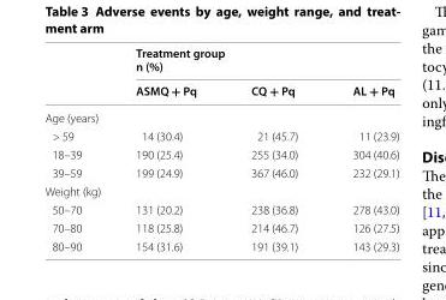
<table><thead><tr><td rowspan="2"></td><td colspan="3">Treatment group n (%)</td></tr><tr><td>ASMQ + Pq</td><td>CQ + Pq</td><td>AL + Pq</td></tr></thead><tbody><tr><td colspan="4">Age (years)</td></tr><tr><td>&gt; 59</td><td>14 (30.4)</td><td>21 (45.7)</td><td>11 (23.9)</td></tr><tr><td>18–39</td><td>190 (25.4)</td><td>255 (34.0)</td><td>304 (40.6)</td></tr><tr><td>39–59</td><td>199 (24.9)</td><td>367 (46.0)</td><td>232 (29.1)</td></tr><tr><td colspan="4">Weight (kg)</td></tr><tr><td>50–70</td><td>131 (20.2)</td><td>238 (36.8)</td><td>278 (43.0)</td></tr><tr><td>70–80</td><td>118 (25.8)</td><td>214 (46.7)</td><td>126 (27.5)</td></tr><tr><td>80–90</td><td>154 (31.6)</td><td>191 (39.1)</td><td>143 (29.3)</td></tr></tbody></table>